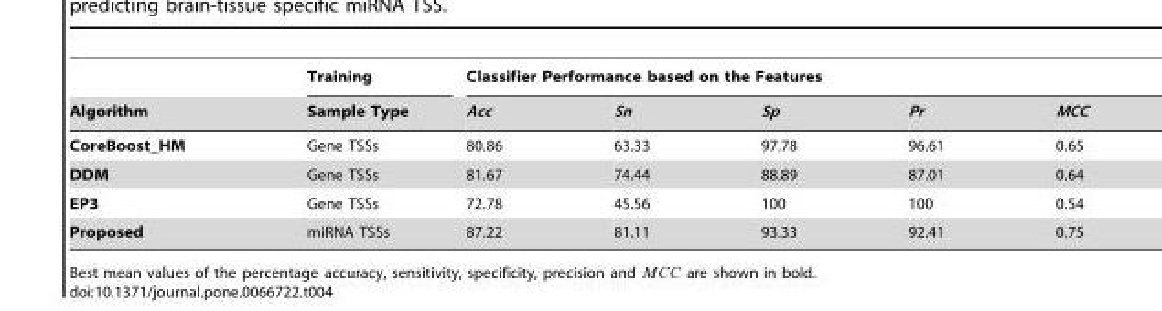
<table><thead><tr><td rowspan="2">Algorithm</td><td rowspan="2">Training Sample Type</td><td colspan="5">Classifier Performance based on the Features</td></tr><tr><td>Acc</td><td>Sn</td><td>Sp</td><td>Pr</td><td>MCC</td></tr></thead><tbody><tr><td>CoreBoost_HM</td><td>Gene TSSs</td><td>80.86</td><td>63.33</td><td>97.78</td><td>96.61</td><td>0.65</td></tr><tr><td>DDM</td><td>Gene TSSs</td><td>81.67</td><td>74.44</td><td>88.89</td><td>87.01</td><td>0.64</td></tr><tr><td>EP3</td><td>Gene TSSs</td><td>72.78</td><td>45.56</td><td>100</td><td>100</td><td>0.54</td></tr><tr><td>Proposed</td><td>miRNA TSSs</td><td>87.22</td><td>81.11</td><td>93.33</td><td>92.41</td><td>0.75</td></tr></tbody></table>